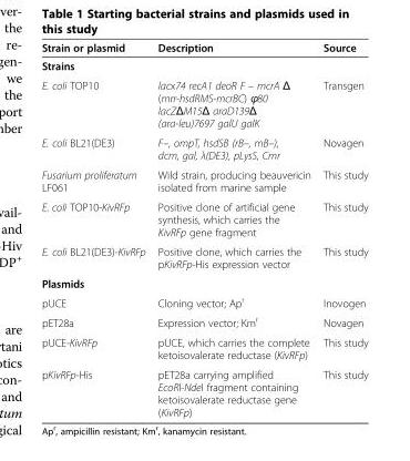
<table><thead><tr><td>Strain or plasmid</td><td>Description</td><td>Source</td></tr></thead><tbody><tr><td colspan="3">Strains</td></tr><tr><td>E. coli TOP10</td><td>lacх74 recA1 deoR F – mcrA Δ (mrr-hsdRMS-mcrBC) ϕ80 lacZΔM15Δ araD139Δ (ara-leu)7697 galU galK</td><td>Transgen</td></tr><tr><td>E. coli BL21(DE3)</td><td>F–, ompT, hsdSB (rB–, mB–), dcm, gal, λ(DE3), pLysS, Cmr</td><td>Novagen</td></tr><tr><td>Fusarium proliferatum LF061</td><td>Wild strain, producing beauvericin isolated from marine sample</td><td>This study</td></tr><tr><td>E. coli TOP10-KivRFp</td><td>Positive clone of artificial gene synthesis, which carries the KivRFp gene fragment</td><td>This study</td></tr><tr><td>E. coli BL21(DE3)-KivRFp</td><td>Positive clone, which carries the pKivRFp-His expression vector</td><td>This study</td></tr><tr><td colspan="3">Plasmids</td></tr><tr><td>pUCE</td><td>Cloning vector; Ap<sup>r</sup></td><td>Inovogen</td></tr><tr><td>pET28a</td><td>Expression vector; Km<sup>r</sup></td><td>Novagen</td></tr><tr><td>pUCE-KivRFp</td><td>pUCE, which carries the complete ketoisovalerate reductase (KivRFp)</td><td>This study</td></tr><tr><td>pKivRFp-His</td><td>pET28a carrying amplified EcoRI-NdeI fragment containing ketoisovalerate reductase gene (KivRFp)</td><td>This study</td></tr></tbody></table>